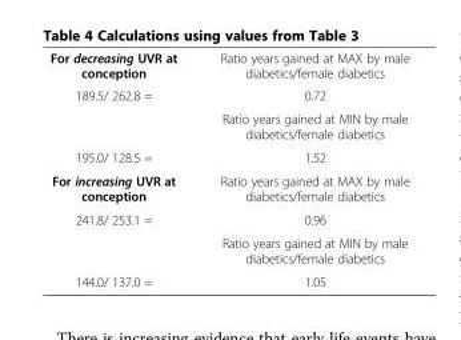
<table><thead><tr><td>For decreasing UVR at conception</td><td>Ratio years gained at MAX by male diabetics/female diabetics</td></tr></thead><tbody><tr><td rowspan="2">189.5/ 262.8 =</td><td>0.72</td></tr><tr><td>Ratio years gained at MIN by male diabetics/female diabetics</td></tr><tr><td>195.0/ 128.5 =</td><td>1.52</td></tr><tr><td>For increasing UVR at conception</td><td>Ratio years gained at MAX by male diabetics/female diabetics</td></tr><tr><td rowspan="2">241.8/ 253.1 =</td><td>0.96</td></tr><tr><td>Ratio years gained at MIN by male diabetics/female diabetics</td></tr><tr><td>144.0/ 137.0 =</td><td>1.05</td></tr></tbody></table>